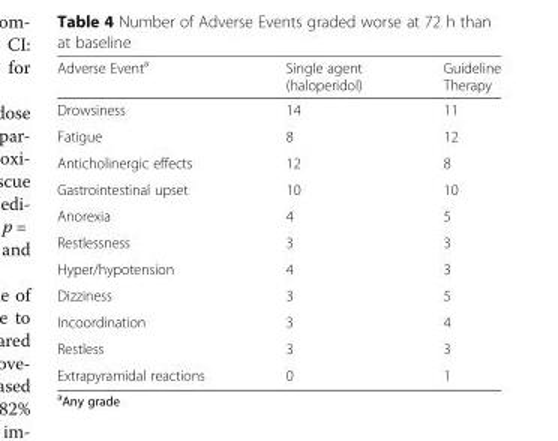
<table><thead><tr><td>Adverse Event<sup>a</sup></td><td>Single agent (haloperidol)</td><td>Guideline Therapy</td></tr></thead><tbody><tr><td>Drowsiness</td><td>14</td><td>11</td></tr><tr><td>Fatigue</td><td>8</td><td>12</td></tr><tr><td>Anticholinergic effects</td><td>12</td><td>8</td></tr><tr><td>Gastrointestinal upset</td><td>10</td><td>10</td></tr><tr><td>Anorexia</td><td>4</td><td>5</td></tr><tr><td>Restlessness</td><td>3</td><td>3</td></tr><tr><td>Hyper/hypotension</td><td>4</td><td>3</td></tr><tr><td>Dizziness</td><td>3</td><td>5</td></tr><tr><td>Incoordination</td><td>3</td><td>4</td></tr><tr><td>Restless</td><td>3</td><td>3</td></tr><tr><td>Extrapyramidal reactions</td><td>0</td><td>1</td></tr></tbody></table>